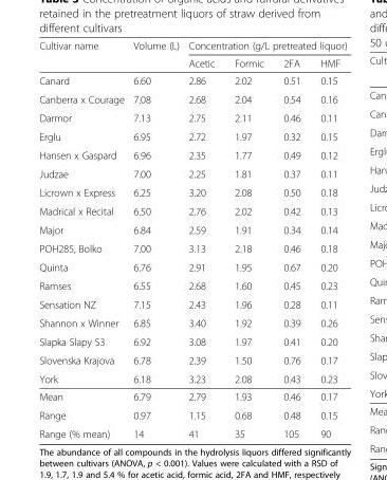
<table><thead><tr><td rowspan="2">Cultivar name</td><td rowspan="2">Volume (L)</td><td colspan="4">Concentration (g/L pretreated liquor)</td></tr><tr><td>Acetic</td><td>Formic</td><td>2FA</td><td>HMF</td></tr></thead><tbody><tr><td>Canard</td><td>6.60</td><td>2.86</td><td>2.02</td><td>0.51</td><td>0.15</td></tr><tr><td>Canberra x Courage</td><td>7.08</td><td>2.68</td><td>2.04</td><td>0.54</td><td>0.16</td></tr><tr><td>Darmor</td><td>7.13</td><td>2.75</td><td>2.11</td><td>0.46</td><td>0.11</td></tr><tr><td>Erglu</td><td>6.95</td><td>2.72</td><td>1.97</td><td>0.32</td><td>0.15</td></tr><tr><td>Hansen x Gaspard</td><td>6.96</td><td>2.35</td><td>1.77</td><td>0.49</td><td>0.12</td></tr><tr><td>Judzae</td><td>7.00</td><td>2.25</td><td>1.81</td><td>0.37</td><td>0.11</td></tr><tr><td>Licrown x Express</td><td>6.25</td><td>3.20</td><td>2.08</td><td>0.50</td><td>0.18</td></tr><tr><td>Madrical x Recital</td><td>6.50</td><td>2.76</td><td>2.02</td><td>0.42</td><td>0.13</td></tr><tr><td>Major</td><td>6.84</td><td>2.59</td><td>1.91</td><td>0.34</td><td>0.14</td></tr><tr><td>POH285, Bolko</td><td>7.00</td><td>3.13</td><td>2.18</td><td>0.46</td><td>0.18</td></tr><tr><td>Quinta</td><td>6.76</td><td>2.91</td><td>1.95</td><td>0.67</td><td>0.20</td></tr><tr><td>Ramses</td><td>6.55</td><td>2.68</td><td>1.60</td><td>0.45</td><td>0.23</td></tr><tr><td>Sensation NZ</td><td>7.15</td><td>2.43</td><td>1.96</td><td>0.28</td><td>0.11</td></tr><tr><td>Shannon x Winner</td><td>6.85</td><td>3.40</td><td>1.92</td><td>0.39</td><td>0.26</td></tr><tr><td>Slapka Slapy S3</td><td>6.92</td><td>3.08</td><td>1.97</td><td>0.41</td><td>0.20</td></tr><tr><td>Slovenska Krajova</td><td>6.78</td><td>2.39</td><td>1.50</td><td>0.76</td><td>0.17</td></tr><tr><td>York</td><td>6.18</td><td>3.23</td><td>2.08</td><td>0.43</td><td>0.23</td></tr><tr><td>Mean</td><td>6.79</td><td>2.79</td><td>1.93</td><td>0.46</td><td>0.17</td></tr><tr><td>Range</td><td>0.97</td><td>1.15</td><td>0.68</td><td>0.48</td><td>0.15</td></tr><tr><td>Range (% mean)</td><td>14</td><td>41</td><td>35</td><td>105</td><td>90</td></tr></tbody></table>